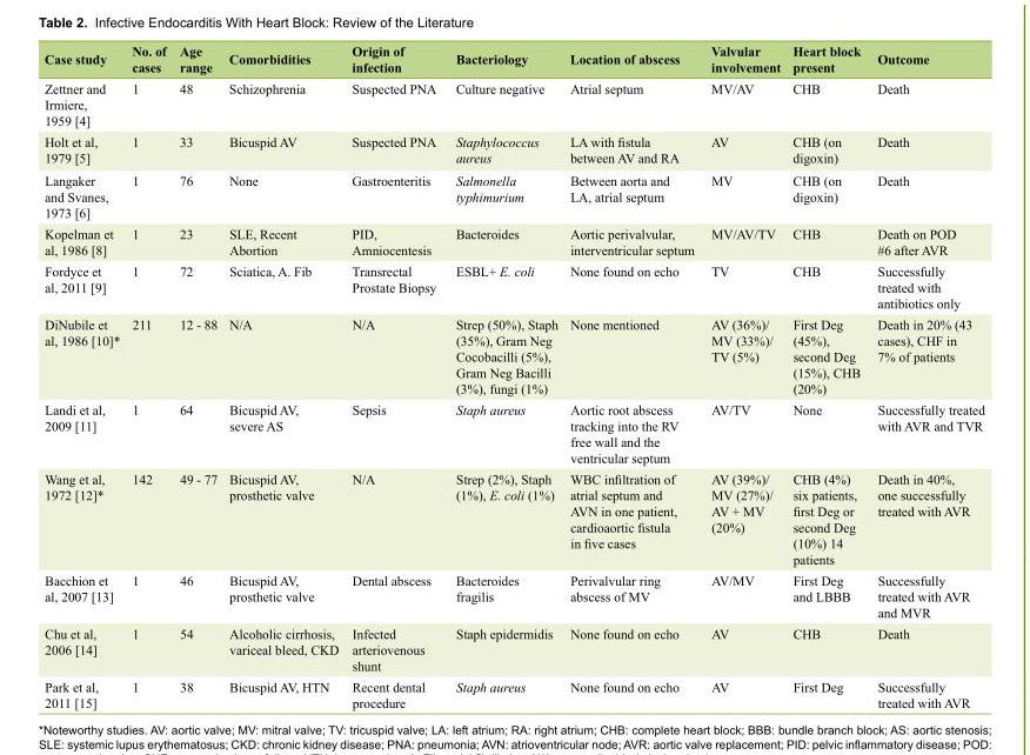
<table><thead><tr><td>Case study</td><td>No. of cases</td><td>Age range</td><td>Comorbidities</td><td>Origin of infection</td><td>Bacteriology</td><td>Location of abscess</td><td>Valvular involvement</td><td>Heart block present</td><td>Outcome</td></tr></thead><tbody><tr><td>Zettner and Irmiere, 1959 [4]</td><td>1</td><td>48</td><td>Schizophrenia</td><td>Suspected PNA</td><td>Culture negative</td><td>Atrial septum</td><td>MV/AV</td><td>CHB</td><td>Death</td></tr><tr><td>Holt et al, 1979 [5]</td><td>1</td><td>33</td><td>Bicuspid AV</td><td>Suspected PNA</td><td>Staphylococcus aureus</td><td>LA with fistula between AV and RA</td><td>AV</td><td>CHB (on digoxin)</td><td>Death</td></tr><tr><td>Langaker and Svanes, 1973 [6]</td><td>1</td><td>76</td><td>None</td><td>Gastroenteritis</td><td>Salmonella typhimurium</td><td>Between aorta and LA, atrial septum</td><td>MV</td><td>CHB (on digoxin)</td><td>Death</td></tr><tr><td>Kopelman et al, 1986 [8]</td><td>1</td><td>23</td><td>SLE, Recent Abortion</td><td>PID, Amniocentesis</td><td>Bacteroides</td><td>Aortic perivalvular, interventricular septum</td><td>MV/AV/TV</td><td>CHB</td><td>Death on POD #6 after AVR</td></tr><tr><td>Fordyce et al, 2011 [9]</td><td>1</td><td>72</td><td>Sciatica, A. Fib</td><td>Transrectal Prostate Biopsy</td><td>ESBL+ E. coli</td><td>None found on echo</td><td>TV</td><td>CHB</td><td>Successfully treated with antibiotics only</td></tr><tr><td>DiNubile et al, 1986 [10]*</td><td>211</td><td>12 - 88</td><td>N/A</td><td>N/A</td><td>Strep (50%), Staph (35%), Gram Neg Cocobacilli (5%), Gram Neg Bacilli (3%), fungi (1%)</td><td>None mentioned</td><td>AV (36%)/ MV (33%)/ TV (5%)</td><td>First Deg (45%), second Deg (15%), CHB (20%)</td><td>Death in 20% (43 cases), CHF in 7% of patients</td></tr><tr><td>Landi et al, 2009 [11]</td><td>1</td><td>64</td><td>Bicuspid AV, severe AS</td><td>Sepsis</td><td>Staph aureus</td><td>Aortic root abscess tracking into the RV free wall and the ventricular septum</td><td>AV/TV</td><td>None</td><td>Successfully treated with AVR and TVR</td></tr><tr><td>Wang et al, 1972 [12]*</td><td>142</td><td>49 - 77</td><td>Bicuspid AV, prosthetic valve</td><td>N/A</td><td>Strep (2%), Staph (1%), E. coli (1%)</td><td>WBC infiltration of atrial septum and AVN in one patient, cardioaortic fistula in five cases</td><td>AV (39%)/ MV (27%)/ AV + MV (20%)</td><td>CHB (4%) six patients, first Deg or second Deg (10%) 14 patients</td><td>Death in 40%, one successfully treated with AVR</td></tr><tr><td>Bacchion et al, 2007 [13]</td><td>1</td><td>46</td><td>Bicuspid AV, prosthetic valve</td><td>Dental abscess</td><td>Bacteroides fragilis</td><td>Perivalvular ring abscess of MV</td><td>AV/MV</td><td>First Deg and LBBB</td><td>Successfully treated with AVR and MVR</td></tr><tr><td>Chu et al, 2006 [14]</td><td>1</td><td>54</td><td>Alcoholic cirrhosis, variceal bleed, CKD</td><td>Infected arteriovenous shunt</td><td>Staph epidermidis</td><td>None found on echo</td><td>AV</td><td>CHB</td><td>Death</td></tr><tr><td>Park et al, 2011 [15]</td><td>1</td><td>38</td><td>Bicuspid AV, HTN</td><td>Recent dental procedure</td><td>Staph aureus</td><td>None found on echo</td><td>AV</td><td>First Deg</td><td>Successfully treated with AVR</td></tr></tbody></table>